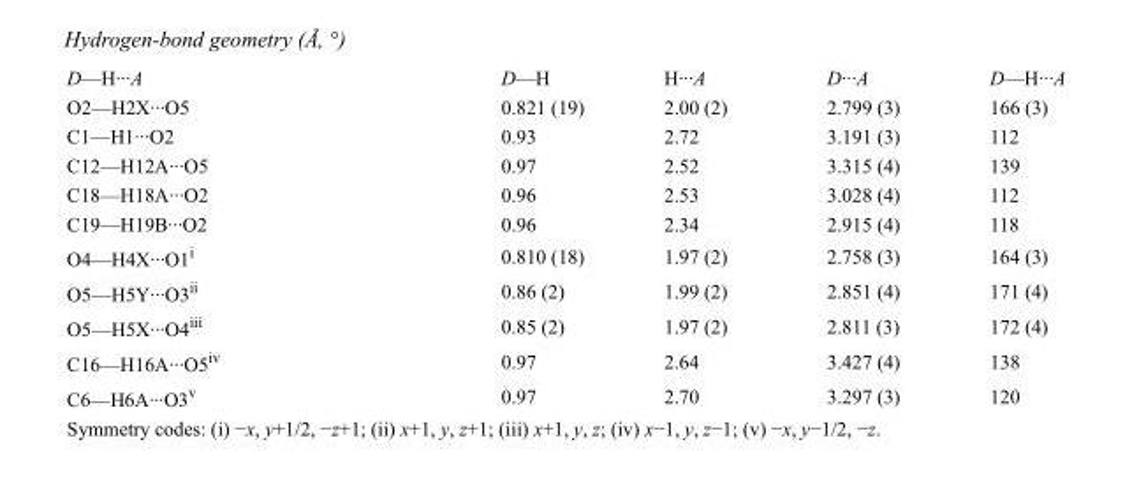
<table><tbody><tr><td>D—H···A</td><td>D—H</td><td>H···A</td><td>D···A</td><td>D—H···A</td></tr><tr><td>O2—H2X···O5</td><td>0.821 (19)</td><td>2.00 (2)</td><td>2.799 (3)</td><td>166 (3)</td></tr><tr><td>C1—H1···O2</td><td>0.93</td><td>2.72</td><td>3.191 (3)</td><td>112</td></tr><tr><td>C12—H12A···O5</td><td>0.97</td><td>2.52</td><td>3.315 (4)</td><td>139</td></tr><tr><td>C18—H18A···O2</td><td>0.96</td><td>2.53</td><td>3.028 (4)</td><td>112</td></tr><tr><td>C19—H19B···O2</td><td>0.96</td><td>2.34</td><td>2.915 (4)</td><td>118</td></tr><tr><td>O4—H4X···O1<sup>i</sup></td><td>0.810 (18)</td><td>1.97 (2)</td><td>2.758 (3)</td><td>164 (3)</td></tr><tr><td>O5—H5Y···O3<sup>ii</sup></td><td>0.86 (2)</td><td>1.99 (2)</td><td>2.851 (4)</td><td>171 (4)</td></tr><tr><td>O5—H5X···O4<sup>iii</sup></td><td>0.85 (2)</td><td>1.97 (2)</td><td>2.811 (3)</td><td>172 (4)</td></tr><tr><td>C16—H16A···O5<sup>iv</sup></td><td>0.97</td><td>2.64</td><td>3.427 (4)</td><td>138</td></tr><tr><td>C6—H6A···O3<sup>v</sup></td><td>0.97</td><td>2.70</td><td>3.297 (3)</td><td>120</td></tr></tbody></table>